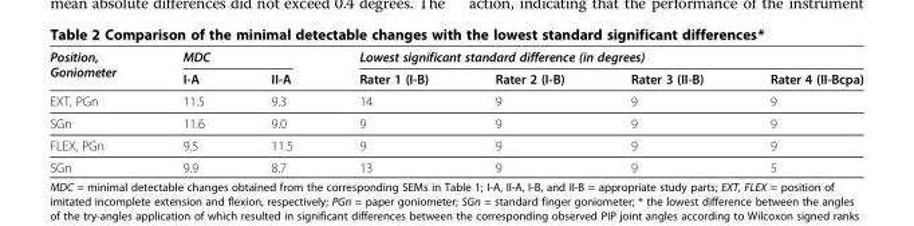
<table><thead><tr><td rowspan="2">Position, Goniometer</td><td colspan="2">MDC</td><td colspan="4">Lowest significant standard difference (in degrees)</td></tr><tr><td>I-A</td><td>II-A</td><td>Rater 1 (I-B)</td><td>Rater 2 (I-B)</td><td>Rater 3 (II-B)</td><td>Rater 4 (II-Bcpa)</td></tr></thead><tbody><tr><td>EXT, PGn</td><td>11.5</td><td>9.3</td><td>14</td><td>9</td><td>9</td><td>9</td></tr><tr><td>SGn</td><td>11.6</td><td>9.0</td><td>9</td><td>9</td><td>9</td><td>9</td></tr><tr><td>FLEX, PGn</td><td>9.5</td><td>11.5</td><td>9</td><td>9</td><td>9</td><td>9</td></tr><tr><td>SGn</td><td>9.9</td><td>8.7</td><td>13</td><td>9</td><td>9</td><td>5</td></tr></tbody></table>